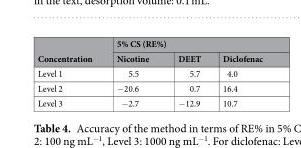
<table><thead><tr><td rowspan="2">Concentration</td><td colspan="3">5% CS (RE%)</td></tr><tr><td>Nicotine</td><td>DEET</td><td>Diclofenac</td></tr></thead><tbody><tr><td>Level 1</td><td>5.5</td><td>5.7</td><td>4.0</td></tr><tr><td>Level 2</td><td>−20.6</td><td>0.7</td><td>16.4</td></tr><tr><td>Level 3</td><td>−2.7</td><td>−12.9</td><td>10.7</td></tr></tbody></table>